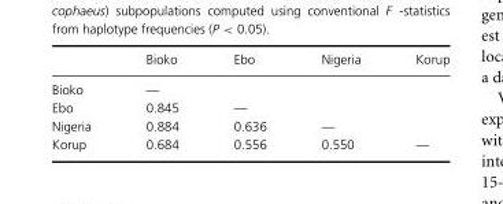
<table><thead><tr><td></td><td>Bioko</td><td>Ebo</td><td>Nigeria</td><td>Korup</td></tr></thead><tbody><tr><td>Bioko</td><td>—</td><td></td><td></td><td></td></tr><tr><td>Ebo</td><td>0.845</td><td>—</td><td></td><td></td></tr><tr><td>Nigeria</td><td>0.884</td><td>0.636</td><td>—</td><td></td></tr><tr><td>Korup</td><td>0.684</td><td>0.556</td><td>0.550</td><td>—</td></tr></tbody></table>